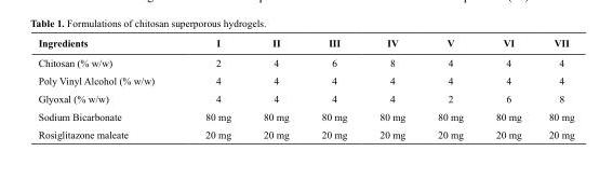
<table><thead><tr><td>Ingredients</td><td>I</td><td>II</td><td>III</td><td>IV</td><td>V</td><td>VI</td><td>VII</td></tr></thead><tbody><tr><td>Chitosan (% w/w)</td><td>2</td><td>4</td><td>6</td><td>8</td><td>4</td><td>4</td><td>4</td></tr><tr><td>Poly Vinyl Alcohol (% w/w)</td><td>4</td><td>4</td><td>4</td><td>4</td><td>4</td><td>4</td><td>4</td></tr><tr><td>Glyoxal (% w/w)</td><td>4</td><td>4</td><td>4</td><td>4</td><td>2</td><td>6</td><td>8</td></tr><tr><td>Sodium Bicarbonate</td><td>80 mg</td><td>80 mg</td><td>80 mg</td><td>80 mg</td><td>80 mg</td><td>80 mg</td><td>80 mg</td></tr><tr><td>Rosiglitazone maleate</td><td>20 mg</td><td>20 mg</td><td>20 mg</td><td>20 mg</td><td>20 mg</td><td>20 mg</td><td>20 mg</td></tr></tbody></table>